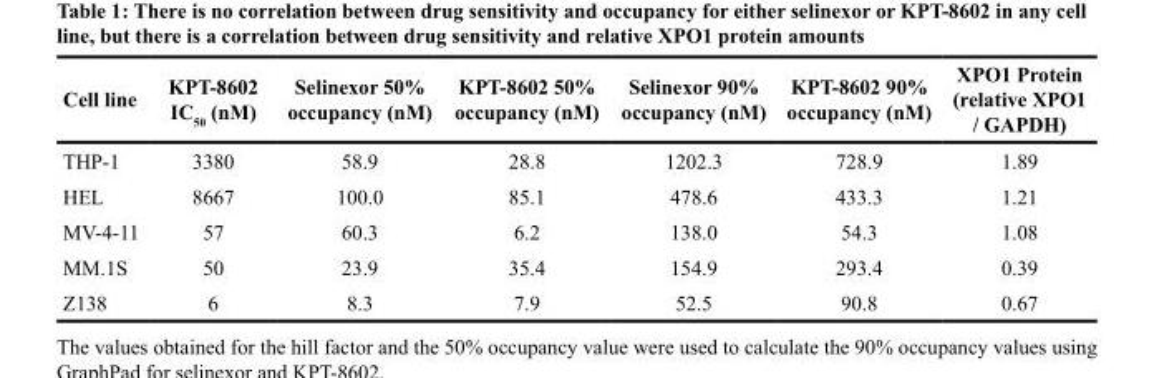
<table><thead><tr><td>Cell line</td><td>KPT-8602 IC<sub>50</sub> (nM)</td><td>Selinexor 50% occupancy (nM)</td><td>KPT-8602 50% occupancy (nM)</td><td>Selinexor 90% occupancy (nM)</td><td>KPT-8602 90% occupancy (nM)</td><td>XPO1 Protein (relative XPO1 / GAPDH)</td></tr></thead><tbody><tr><td>THP-1</td><td>3380</td><td>58.9</td><td>28.8</td><td>1202.3</td><td>728.9</td><td>1.89</td></tr><tr><td>HEL</td><td>8667</td><td>100.0</td><td>85.1</td><td>478.6</td><td>433.3</td><td>1.21</td></tr><tr><td>MV-4-11</td><td>57</td><td>60.3</td><td>6.2</td><td>138.0</td><td>54.3</td><td>1.08</td></tr><tr><td>MM.1S</td><td>50</td><td>23.9</td><td>35.4</td><td>154.9</td><td>293.4</td><td>0.39</td></tr><tr><td>Z138</td><td>6</td><td>8.3</td><td>7.9</td><td>52.5</td><td>90.8</td><td>0.67</td></tr></tbody></table>